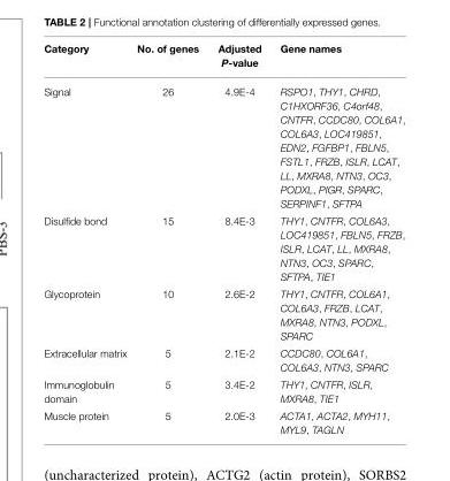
<table><thead><tr><td>Category</td><td>No. of genes</td><td>Adjusted P-value</td><td>Gene names</td></tr></thead><tbody><tr><td>Signal</td><td>26</td><td>4.9E-4</td><td>RSPO1, THY1, CHRD, C1HXORF36, C4orf48, CNTFR, CCDC80, COL6A1, COL6A3, LOC419851, EDN2, FGFBP1, FBLN5, FSTL1, FRZB, ISLR, LCAT, LL, MXRA8, NTN3, OC3, PODXL, PIGR, SPARC, SERPINF1, SFTPA</td></tr><tr><td>Disulfide bond</td><td>15</td><td>8.4E-3</td><td>THY1, CNTFR, COL6A3, LOC419851, FBLN5, FRZB, ISLR, LCAT, LL, MXRA8, NTN3, OC3, SPARC, SFTPA, TIE1</td></tr><tr><td>Glycoprotein</td><td>10</td><td>2.6E-2</td><td>THY1, CNTFR, COL6A1, COL6A3, FRZB, LCAT, MXRA8, NTN3, PODXL, SPARC</td></tr><tr><td>Extracellular matrix</td><td>5</td><td>2.1E-2</td><td>CCDC80, COL6A1, COL6A3, NTN3, SPARC</td></tr><tr><td>Immunoglobulin domain</td><td>5</td><td>3.4E-2</td><td>THY1, CNTFR, ISLR, MXRA8, TIE1</td></tr><tr><td>Muscle protein</td><td>5</td><td>2.0E-3</td><td>ACTA1, ACTA2, MYH11, MYL9, TAGLN</td></tr></tbody></table>